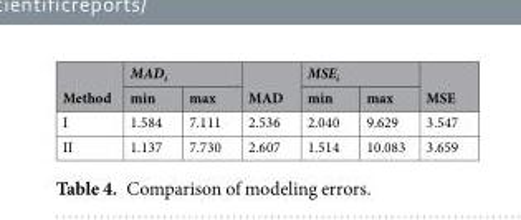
<table><thead><tr><td rowspan="2">Method</td><td colspan="2">MAD<sub>i</sub></td><td rowspan="2">MAD</td><td colspan="2">MSE<sub>i</sub></td><td rowspan="2">MSE</td></tr><tr><td>min</td><td>max</td><td>min</td><td>max</td></tr></thead><tbody><tr><td>I</td><td>1.584</td><td>7.111</td><td>2.536</td><td>2.040</td><td>9.629</td><td>3.547</td></tr><tr><td>II</td><td>1.137</td><td>7.730</td><td>2.607</td><td>1.514</td><td>10.083</td><td>3.659</td></tr></tbody></table>